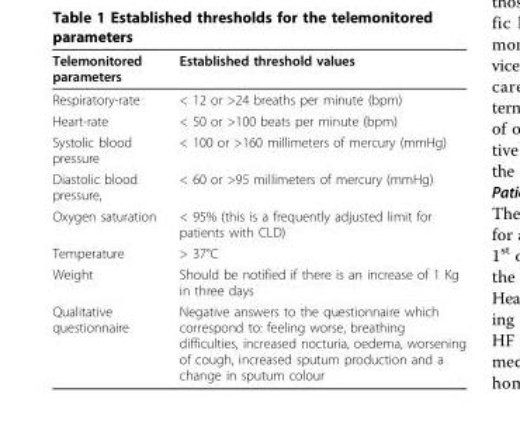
<table><thead><tr><td>Telemonitored parameters</td><td>Established threshold values</td></tr></thead><tbody><tr><td>Respiratory-rate</td><td>&lt; 12 or &gt;24 breaths per minute (bpm)</td></tr><tr><td>Heart-rate</td><td>&lt; 50 or &gt;100 beats per minute (bpm)</td></tr><tr><td>Systolic blood pressure</td><td>&lt; 100 or &gt;160 millimeters of mercury (mmHg)</td></tr><tr><td>Diastolic blood pressure,</td><td>&lt; 60 or &gt;95 millimeters of mercury (mmHg)</td></tr><tr><td>Oxygen saturation</td><td>&lt; 95% (this is a frequently adjusted limit for patients with CLD)</td></tr><tr><td>Temperature</td><td>&gt; 37°C</td></tr><tr><td>Weight</td><td>Should be notified if there is an increase of 1 Kg in three days</td></tr><tr><td>Qualitative questionnaire</td><td>Negative answers to the questionnaire which correspond to: feeling worse, breathing difficulties, increased nocturia, oedema, worsening of cough, increased sputum production and a change in sputum colour</td></tr></tbody></table>